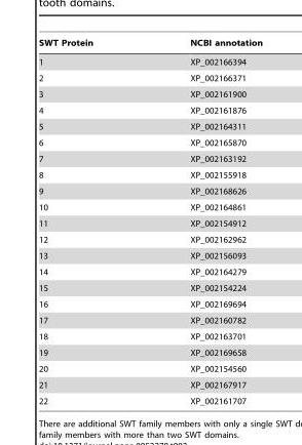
<table><thead><tr><td>SWT Protein</td><td>NCBI annotation</td></tr></thead><tbody><tr><td>1</td><td>XP_002166394</td></tr><tr><td>2</td><td>XP_002166371</td></tr><tr><td>3</td><td>XP_002161900</td></tr><tr><td>4</td><td>XP_002161876</td></tr><tr><td>5</td><td>XP_002164311</td></tr><tr><td>6</td><td>XP_002165870</td></tr><tr><td>7</td><td>XP_002163192</td></tr><tr><td>8</td><td>XP_002155918</td></tr><tr><td>9</td><td>XP_002168626</td></tr><tr><td>10</td><td>XP_002164861</td></tr><tr><td>11</td><td>XP_002154912</td></tr><tr><td>12</td><td>XP_002162962</td></tr><tr><td>13</td><td>XP_002156093</td></tr><tr><td>14</td><td>XP_002164279</td></tr><tr><td>15</td><td>XP_002154224</td></tr><tr><td>16</td><td>XP_002169694</td></tr><tr><td>17</td><td>XP_002160782</td></tr><tr><td>18</td><td>XP_002163701</td></tr><tr><td>19</td><td>XP_002169658</td></tr><tr><td>20</td><td>XP_002154560</td></tr><tr><td>21</td><td>XP_002167917</td></tr><tr><td>22</td><td>XP_002161707</td></tr></tbody></table>